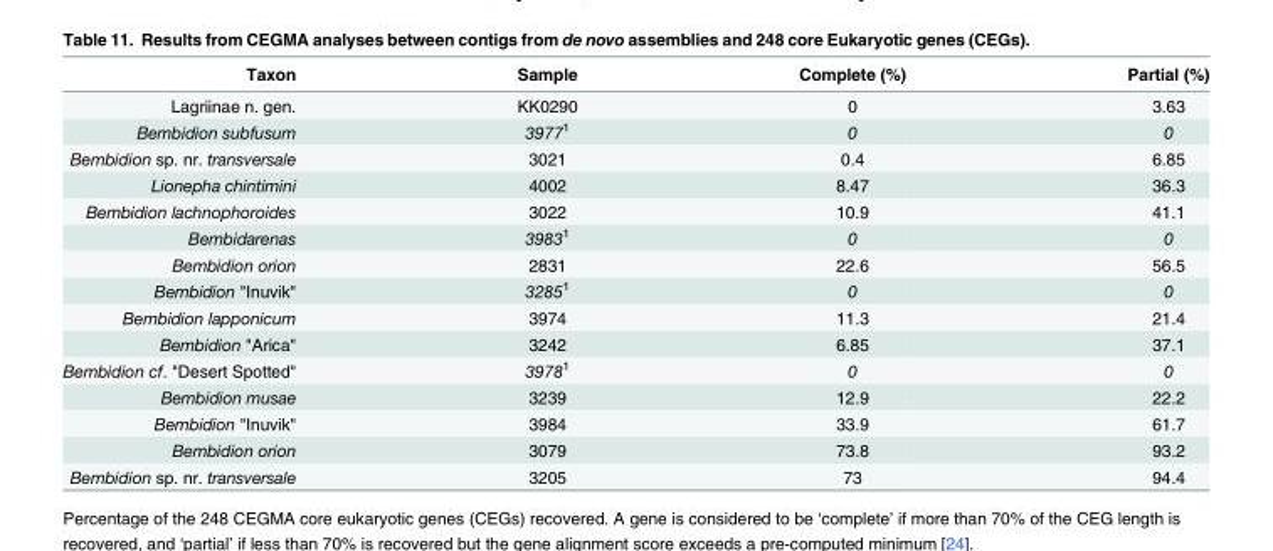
<table><thead><tr><td>Taxon</td><td>Sample</td><td>Complete (%)</td><td>Partial (%)</td></tr></thead><tbody><tr><td>Lagriinae n. gen.</td><td>KK0290</td><td>0</td><td>3.63</td></tr><tr><td>Bembidion subfusum</td><td>3977<sup>1</sup></td><td>0</td><td>0</td></tr><tr><td>Bembidion sp. nr. transversale</td><td>3021</td><td>0.4</td><td>6.85</td></tr><tr><td>Lionepha chintimini</td><td>4002</td><td>8.47</td><td>36.3</td></tr><tr><td>Bembidion lachnophoroides</td><td>3022</td><td>10.9</td><td>41.1</td></tr><tr><td>Bembidarenas</td><td>3983<sup>1</sup></td><td>0</td><td>0</td></tr><tr><td>Bembidion orion</td><td>2831</td><td>22.6</td><td>56.5</td></tr><tr><td>Bembidion &quot;Inuvik&quot;</td><td>3285<sup>1</sup></td><td>0</td><td>0</td></tr><tr><td>Bembidion lapponicum</td><td>3974</td><td>11.3</td><td>21.4</td></tr><tr><td>Bembidion &quot;Arica&quot;</td><td>3242</td><td>6.85</td><td>37.1</td></tr><tr><td>Bembidion cf. &quot;Desert Spotted&quot;</td><td>3978<sup>1</sup></td><td>0</td><td>0</td></tr><tr><td>Bembidion musae</td><td>3239</td><td>12.9</td><td>22.2</td></tr><tr><td>Bembidion &quot;Inuvik&quot;</td><td>3984</td><td>33.9</td><td>61.7</td></tr><tr><td>Bembidion orion</td><td>3079</td><td>73.8</td><td>93.2</td></tr><tr><td>Bembidion sp. nr. transversale</td><td>3205</td><td>73</td><td>94.4</td></tr></tbody></table>